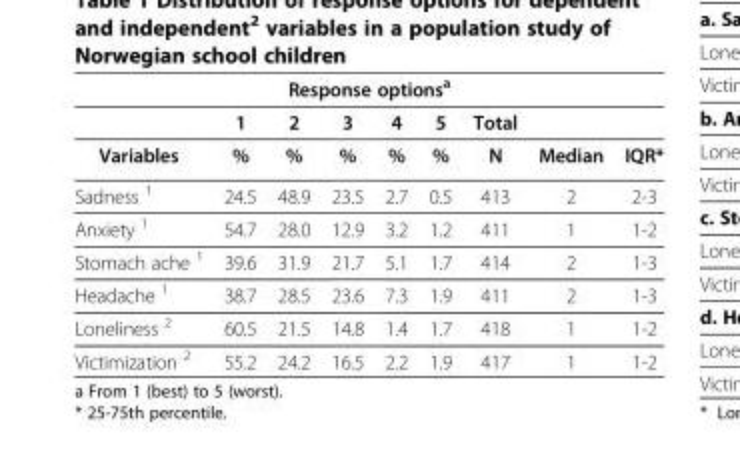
<table><thead><tr><td colspan="9">Response options<sup>a</sup></td></tr><tr><td rowspan="2">Variables</td><td rowspan="2">1 %</td><td rowspan="2">2 %</td><td rowspan="2">3 %</td><td rowspan="2">4 %</td><td rowspan="2">5 %</td><td rowspan="2">Total N</td><td rowspan="2">Median</td><td rowspan="2">IQR*</td></tr><tr></tr></thead><tbody><tr><td>Sadness <sup>1</sup></td><td>24.5</td><td>48.9</td><td>23.5</td><td>2.7</td><td>0.5</td><td>413</td><td>2</td><td>2-3</td></tr><tr><td>Anxiety <sup>1</sup></td><td>54.7</td><td>28.0</td><td>12.9</td><td>3.2</td><td>1.2</td><td>411</td><td>1</td><td>1-2</td></tr><tr><td>Stomach ache <sup>1</sup></td><td>39.6</td><td>31.9</td><td>21.7</td><td>5.1</td><td>1.7</td><td>414</td><td>2</td><td>1-3</td></tr><tr><td>Headache <sup>1</sup></td><td>38.7</td><td>28.5</td><td>23.6</td><td>7.3</td><td>1.9</td><td>411</td><td>2</td><td>1-3</td></tr><tr><td>Loneliness <sup>2</sup></td><td>60.5</td><td>21.5</td><td>14.8</td><td>1.4</td><td>1.7</td><td>418</td><td>1</td><td>1-2</td></tr><tr><td>Victimization <sup>2</sup></td><td>55.2</td><td>24.2</td><td>16.5</td><td>2.2</td><td>1.9</td><td>417</td><td>1</td><td>1-2</td></tr></tbody></table>